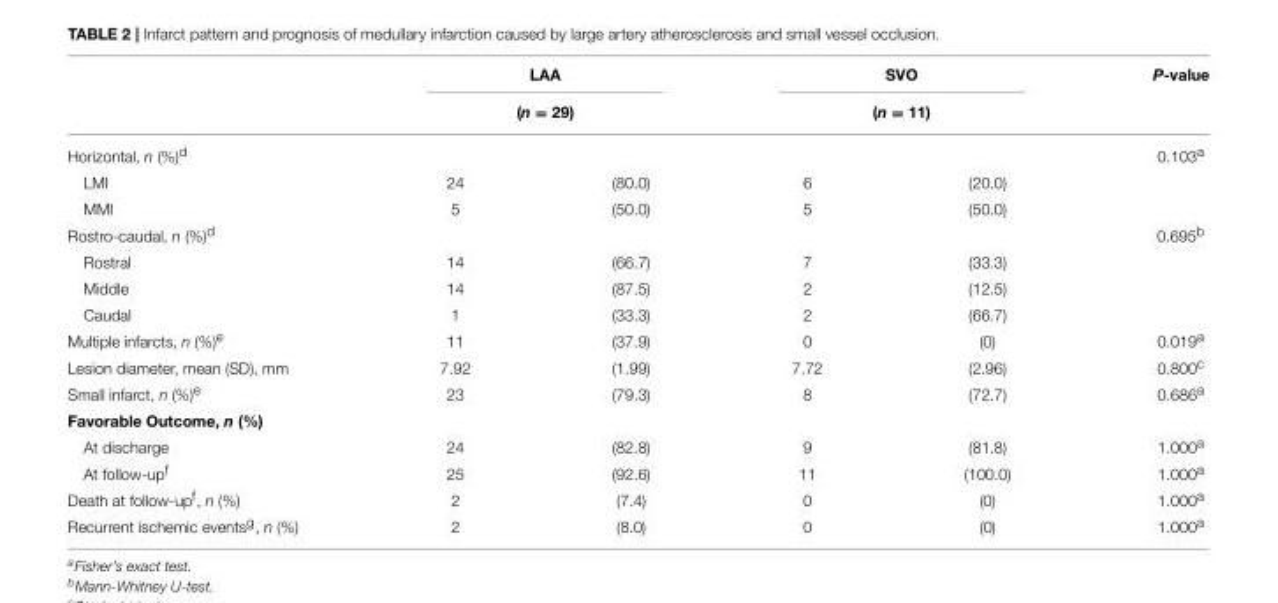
<table><thead><tr><td rowspan="3">Horizontal, n (%)<sup>d</sup></td><td rowspan="2" colspan="2">LAA (n = 29)</td><td rowspan="2" colspan="2">SVO (n = 11)</td><td rowspan="3">P-value 0.103<sup>a</sup></td></tr><tr></tr><tr><td></td><td></td><td></td><td></td></tr></thead><tbody><tr><td>LMI</td><td>24</td><td>(80.0)</td><td>6</td><td>(20.0)</td><td></td></tr><tr><td>MMI</td><td>5</td><td>(50.0)</td><td>5</td><td>(50.0)</td><td></td></tr><tr><td>Rostro-caudal, n (%)<sup>d</sup></td><td></td><td></td><td></td><td></td><td>0.695<sup>b</sup></td></tr><tr><td>Rostral</td><td>14</td><td>(66.7)</td><td>7</td><td>(33.3)</td><td></td></tr><tr><td>Middle</td><td>14</td><td>(87.5)</td><td>2</td><td>(12.5)</td><td></td></tr><tr><td>Caudal</td><td>1</td><td>(33.3)</td><td>2</td><td>(66.7)</td><td></td></tr><tr><td>Multiple infarcts, n (%)<sup>e</sup></td><td>11</td><td>(37.9)</td><td>0</td><td>(0)</td><td>0.019<sup>a</sup></td></tr><tr><td>Lesion diameter, mean (SD), mm</td><td>7.92</td><td>(1.99)</td><td>7.72</td><td>(2.96)</td><td>0.800<sup>c</sup></td></tr><tr><td>Small infarct, n (%)<sup>e</sup></td><td>23</td><td>(79.3)</td><td>8</td><td>(72.7)</td><td>0.686<sup>a</sup></td></tr><tr><td colspan="6">Favorable Outcome, n (%)</td></tr><tr><td>At discharge</td><td>24</td><td>(82.8)</td><td>9</td><td>(81.8)</td><td>1.000<sup>a</sup></td></tr><tr><td>At follow-up<sup>f</sup></td><td>25</td><td>(92.6)</td><td>11</td><td>(100.0)</td><td>1.000<sup>a</sup></td></tr><tr><td>Death at follow-up<sup>f</sup>, n (%)</td><td>2</td><td>(7.4)</td><td>0</td><td>(0)</td><td>1.000<sup>a</sup></td></tr><tr><td>Recurrent ischemic events<sup>g</sup>, n (%)</td><td>2</td><td>(8.0)</td><td>0</td><td>(0)</td><td>1.000<sup>a</sup></td></tr></tbody></table>